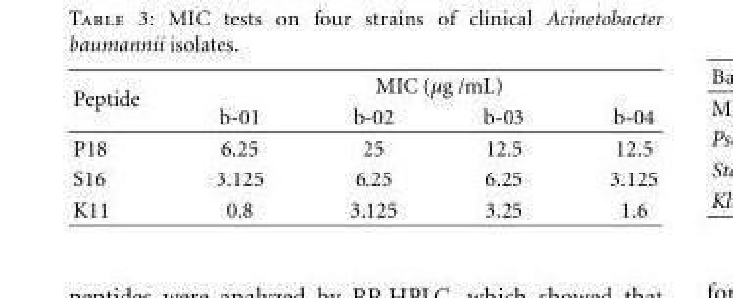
<table><thead><tr><td rowspan="2">Peptide</td><td colspan="4">MIC (μg /mL)</td></tr><tr><td>b-01</td><td>b-02</td><td>b-03</td><td>b-04</td></tr></thead><tbody><tr><td>P18</td><td>6.25</td><td>25</td><td>12.5</td><td>12.5</td></tr><tr><td>S16</td><td>3.125</td><td>6.25</td><td>6.25</td><td>3.125</td></tr><tr><td>K11</td><td>0.8</td><td>3.125</td><td>3.25</td><td>1.6</td></tr></tbody></table>